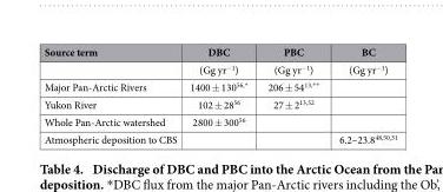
<table><thead><tr><td>Source term</td><td>DBC</td><td>PBC</td><td>BC</td></tr></thead><tbody><tr><td></td><td>(Gg yr<sup>−1</sup>)</td><td>(Gg yr<sup>−1</sup>)</td><td>(Gg yr<sup>−1</sup>)</td></tr><tr><td>Major Pan-Arctic Rivers</td><td>1400 ± 130<sup>56</sup>,*</td><td>206 ± 54<sup>13</sup>,**</td><td></td></tr><tr><td>Yukon River</td><td>102 ± 28<sup>56</sup></td><td>27 ± 2<sup>13</sup>,<sup>52</sup></td><td></td></tr><tr><td>Whole Pan-Arctic watershed</td><td>2800 ± 300<sup>56</sup></td><td></td><td></td></tr><tr><td>Atmospheric deposition to CBS</td><td></td><td></td><td>6.2–23.8<sup>48</sup>,<sup>50</sup>,<sup>51</sup></td></tr></tbody></table>